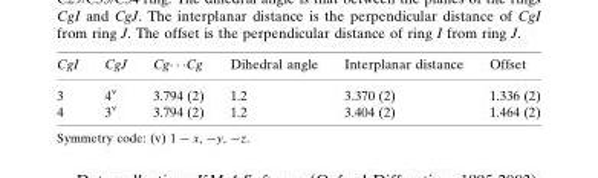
<table><thead><tr><td>CgI</td><td>CgJ</td><td>Cg� � �Cg</td><td>Dihedral angle</td><td>Interplanar distance</td><td>Offset</td></tr></thead><tbody><tr><td>3</td><td>4<sup>v</sup></td><td>3.794 (2)</td><td>1.2</td><td>3.370 (2)</td><td>1.336 (2)</td></tr><tr><td>4</td><td>3<sup>v</sup></td><td>3.794 (2)</td><td>1.2</td><td>3.404 (2)</td><td>1.464 (2)</td></tr></tbody></table>